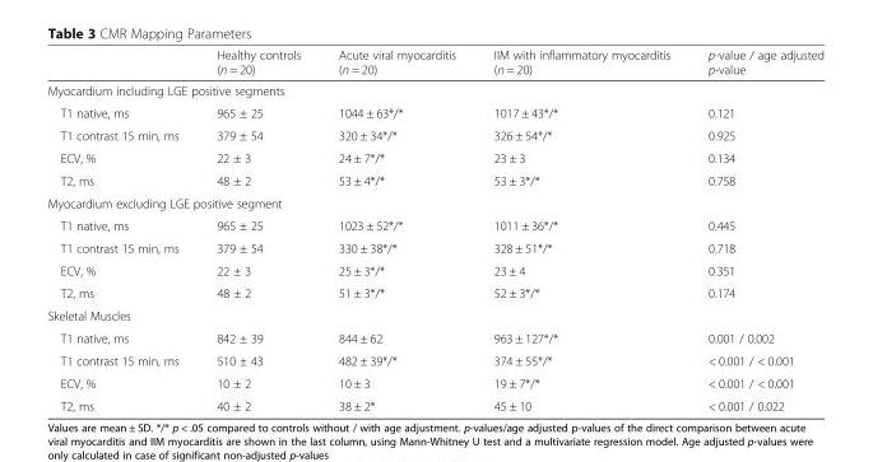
<table><thead><tr><td></td><td>Healthy controls (n = 20)</td><td>Acute viral myocarditis (n = 20)</td><td>IIM with inflammatory myocarditis (n = 20)</td><td>p-value / age adjusted p-value</td></tr></thead><tbody><tr><td colspan="5">Myocardium including LGE positive segments</td></tr><tr><td>T1 native, ms</td><td>965 ± 25</td><td>1044 ± 63*/*</td><td>1017 ± 43*/*</td><td>0.121</td></tr><tr><td>T1 contrast 15 min, ms</td><td>379 ± 54</td><td>320 ± 34*/*</td><td>326 ± 54*/*</td><td>0.925</td></tr><tr><td>ECV, %</td><td>22 ± 3</td><td>24 ± 7*/*</td><td>23 ± 3</td><td>0.134</td></tr><tr><td>T2, ms</td><td>48 ± 2</td><td>53 ± 4*/*</td><td>53 ± 3*/*</td><td>0.758</td></tr><tr><td colspan="5">Myocardium excluding LGE positive segment</td></tr><tr><td>T1 native, ms</td><td>965 ± 25</td><td>1023 ± 52*/*</td><td>1011 ± 36*/*</td><td>0.445</td></tr><tr><td>T1 contrast 15 min, ms</td><td>379 ± 54</td><td>330 ± 38*/*</td><td>328 ± 51*/*</td><td>0.718</td></tr><tr><td>ECV, %</td><td>22 ± 3</td><td>25 ± 3*/*</td><td>23 ± 4</td><td>0.351</td></tr><tr><td>T2, ms</td><td>48 ± 2</td><td>51 ± 3*/*</td><td>52 ± 3*/*</td><td>0.174</td></tr><tr><td colspan="5">Skeletal Muscles</td></tr><tr><td>T1 native, ms</td><td>842 ± 39</td><td>844 ± 62</td><td>963 ± 127*/*</td><td>0.001 / 0.002</td></tr><tr><td>T1 contrast 15 min, ms</td><td>510 ± 43</td><td>482 ± 39*/*</td><td>374 ± 55*/*</td><td>&lt; 0.001 / &lt; 0.001</td></tr><tr><td>ECV, %</td><td>10 ± 2</td><td>10 ± 3</td><td>19 ± 7*/*</td><td>&lt; 0.001 / &lt; 0.001</td></tr><tr><td>T2, ms</td><td>40 ± 2</td><td>38 ± 2*</td><td>45 ± 10</td><td>&lt; 0.001 / 0.022</td></tr></tbody></table>